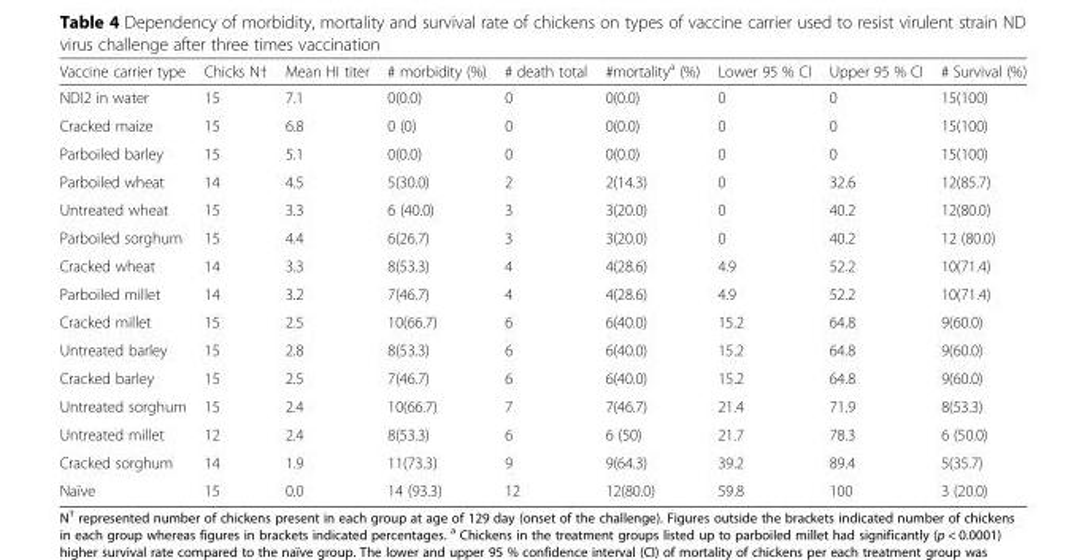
<table><thead><tr><td>Vaccine carrier type</td><td>Chicks N†</td><td>Mean HI titer</td><td># morbidity (%)</td><td># death total</td><td>#mortality<sup>a</sup> (%)</td><td>Lower 95 % CI</td><td>Upper 95 % CI</td><td># Survival (%)</td></tr></thead><tbody><tr><td>NDI2 in water</td><td>15</td><td>7.1</td><td>0(0.0)</td><td>0</td><td>0(0.0)</td><td>0</td><td>0</td><td>15(100)</td></tr><tr><td>Cracked maize</td><td>15</td><td>6.8</td><td>0 (0)</td><td>0</td><td>0(0.0)</td><td>0</td><td>0</td><td>15(100)</td></tr><tr><td>Parboiled barley</td><td>15</td><td>5.1</td><td>0(0.0)</td><td>0</td><td>0(0.0)</td><td>0</td><td>0</td><td>15(100)</td></tr><tr><td>Parboiled wheat</td><td>14</td><td>4.5</td><td>5(30.0)</td><td>2</td><td>2(14.3)</td><td>0</td><td>32.6</td><td>12(85.7)</td></tr><tr><td>Untreated wheat</td><td>15</td><td>3.3</td><td>6 (40.0)</td><td>3</td><td>3(20.0)</td><td>0</td><td>40.2</td><td>12(80.0)</td></tr><tr><td>Parboiled sorghum</td><td>15</td><td>4.4</td><td>6(26.7)</td><td>3</td><td>3(20.0)</td><td>0</td><td>40.2</td><td>12 (80.0)</td></tr><tr><td>Cracked wheat</td><td>14</td><td>3.3</td><td>8(53.3)</td><td>4</td><td>4(28.6)</td><td>4.9</td><td>52.2</td><td>10(71.4)</td></tr><tr><td>Parboiled millet</td><td>14</td><td>3.2</td><td>7(46.7)</td><td>4</td><td>4(28.6)</td><td>4.9</td><td>52.2</td><td>10(71.4)</td></tr><tr><td>Cracked millet</td><td>15</td><td>2.5</td><td>10(66.7)</td><td>6</td><td>6(40.0)</td><td>15.2</td><td>64.8</td><td>9(60.0)</td></tr><tr><td>Untreated barley</td><td>15</td><td>2.8</td><td>8(53.3)</td><td>6</td><td>6(40.0)</td><td>15.2</td><td>64.8</td><td>9(60.0)</td></tr><tr><td>Cracked barley</td><td>15</td><td>2.5</td><td>7(46.7)</td><td>6</td><td>6(40.0)</td><td>15.2</td><td>64.8</td><td>9(60.0)</td></tr><tr><td>Untreated sorghum</td><td>15</td><td>2.4</td><td>10(66.7)</td><td>7</td><td>7(46.7)</td><td>21.4</td><td>71.9</td><td>8(53.3)</td></tr><tr><td>Untreated millet</td><td>12</td><td>2.4</td><td>8(53.3)</td><td>6</td><td>6 (50)</td><td>21.7</td><td>78.3</td><td>6 (50.0)</td></tr><tr><td>Cracked sorghum</td><td>14</td><td>1.9</td><td>11(73.3)</td><td>9</td><td>9(64.3)</td><td>39.2</td><td>89.4</td><td>5(35.7)</td></tr><tr><td>Naïve</td><td>15</td><td>0.0</td><td>14 (93.3)</td><td>12</td><td>12(80.0)</td><td>59.8</td><td>100</td><td>3 (20.0)</td></tr></tbody></table>